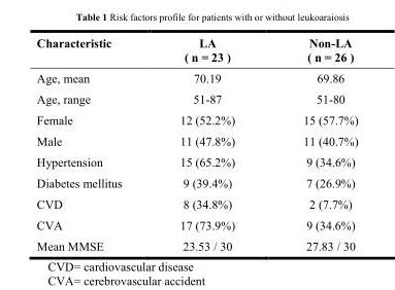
<table><thead><tr><td>Characteristic</td><td>LA ( n = 23 )</td><td>Non-LA ( n = 26 )</td></tr></thead><tbody><tr><td>Age, mean</td><td>70.19</td><td>69.86</td></tr><tr><td>Age, range</td><td>51-87</td><td>51-80</td></tr><tr><td>Female</td><td>12 (52.2%)</td><td>15 (57.7%)</td></tr><tr><td>Male</td><td>11 (47.8%)</td><td>11 (40.7%)</td></tr><tr><td>Hypertension</td><td>15 (65.2%)</td><td>9 (34.6%)</td></tr><tr><td>Diabetes mellitus</td><td>9 (39.4%)</td><td>7 (26.9%)</td></tr><tr><td>CVD</td><td>8 (34.8%)</td><td>2 (7.7%)</td></tr><tr><td>CVA</td><td>17 (73.9%)</td><td>9 (34.6%)</td></tr><tr><td>Mean MMSE</td><td>23.53 / 30</td><td>27.83 / 30</td></tr></tbody></table>